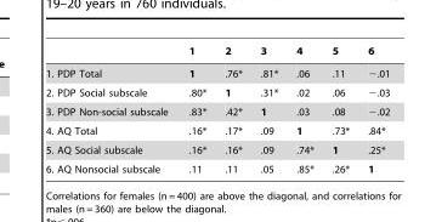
<table><thead><tr><td></td><td>1</td><td>2</td><td>3</td><td>4</td><td>5</td><td>6</td></tr></thead><tbody><tr><td>1. PDP Total</td><td>1</td><td>.76*</td><td>.81*</td><td>.06</td><td>.11</td><td>−.01</td></tr><tr><td>2. PDP Social subscale</td><td>.80*</td><td>1</td><td>.31*</td><td>.02</td><td>.06</td><td>−.03</td></tr><tr><td>3. PDP Non-social subscale</td><td>.83*</td><td>.42*</td><td>1</td><td>.03</td><td>.08</td><td>−.02</td></tr><tr><td>4. AQ Total</td><td>.16*</td><td>.17*</td><td>.09</td><td>1</td><td>.73*</td><td>.84*</td></tr><tr><td>5. AQ Social subscale</td><td>.16*</td><td>.16*</td><td>.09</td><td>.74*</td><td>1</td><td>.25*</td></tr><tr><td>6. AQ Nonsocial subscale</td><td>.11</td><td>.11</td><td>.05</td><td>.85*</td><td>.26*</td><td>1</td></tr></tbody></table>